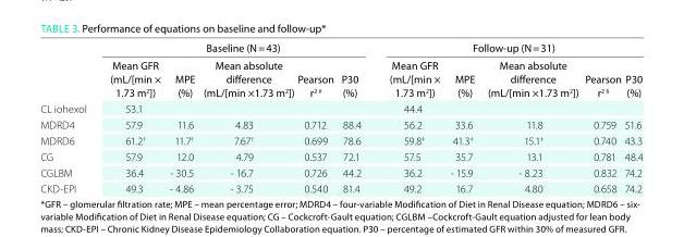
<table><thead><tr><td rowspan="2"></td><td colspan="5">Baseline (n = 43)</td><td colspan="5">Follow-up (n = 31)</td></tr><tr><td>Mean GFr (mL/[min × 1.73 m<sup>2</sup>])</td><td>MPe (%)</td><td>Mean absolute difference (mL/[min ×1.73 m<sup>2</sup>])</td><td>Pearson r<sup>2 ‡</sup></td><td>P30 (%)</td><td>Mean GFr (mL/[min × 1.73 m<sup>2</sup>])</td><td>MPe (%)</td><td>Mean absolute difference (mL/[min ×1.73 m<sup>2</sup>])</td><td>Pearson r<sup>2 §</sup></td><td>P30 (%)</td></tr></thead><tbody><tr><td>CL iohexol</td><td>53.1</td><td></td><td></td><td></td><td></td><td>44.4</td><td></td><td></td><td></td><td></td></tr><tr><td>MDRD4</td><td>57.9</td><td>11.6</td><td>4.83</td><td>0.712</td><td>88.4</td><td>56.2</td><td>33.6</td><td>11.8</td><td>0.759</td><td>51.6</td></tr><tr><td>MDRD6</td><td>61.2<sup>†</sup></td><td>11.7<sup>†</sup></td><td>7.67<sup>†</sup></td><td>0.699</td><td>78.6</td><td>59.8<sup>‡</sup></td><td>41.3<sup>‡</sup></td><td>15.1<sup>‡</sup></td><td>0.740</td><td>43.3</td></tr><tr><td>CG</td><td>57.9</td><td>12.0</td><td>4.79</td><td>0.537</td><td>72.1</td><td>57.5</td><td>35.7</td><td>13.1</td><td>0.781</td><td>48.4</td></tr><tr><td>CGLBM</td><td>36.4</td><td>- 30.5</td><td>- 16.7</td><td>0.726</td><td>44.2</td><td>36.2</td><td>- 15.9</td><td>- 8.23</td><td>0.832</td><td>74.2</td></tr><tr><td>CKD-EPI</td><td>49.3</td><td>- 4.86</td><td>- 3.75</td><td>0.540</td><td>81.4</td><td>49.2</td><td>16.7</td><td>4.80</td><td>0.658</td><td>74.2</td></tr></tbody></table>